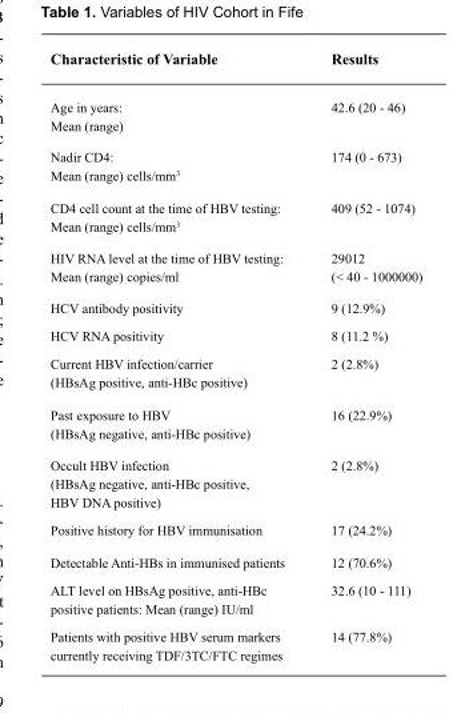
<table><thead><tr><td>Characteristic of Variable</td><td>Results</td></tr></thead><tbody><tr><td>Age in years: Mean (range)</td><td>42.6 (20 - 46)</td></tr><tr><td>Nadir CD4: Mean (range) cells/mm<sup>3</sup></td><td>174 (0 - 673)</td></tr><tr><td>CD4 cell count at the time of HBV testing: Mean (range) cells/mm<sup>3</sup></td><td>409 (52 - 1074)</td></tr><tr><td>HIV RNA level at the time of HBV testing: Mean (range) copies/ml</td><td>29012 (&lt; 40 - 1000000)</td></tr><tr><td>HCV antibody positivity</td><td>9 (12.9%)</td></tr><tr><td>HCV RNA positivity</td><td>8 (11.2 %)</td></tr><tr><td>Current HBV infection/carrier (HBsAg positive, anti-HBc positive)</td><td>2 (2.8%)</td></tr><tr><td>Past exposure to HBV (HBsAg negative, anti-HBc positive)</td><td>16 (22.9%)</td></tr><tr><td>Occult HBV infection (HBsAg negative, anti-HBc positive, HBV DNA positive)</td><td>2 (2.8%)</td></tr><tr><td>Positive history for HBV immunisation</td><td>17 (24.2%)</td></tr><tr><td>Detectable Anti-HBs in immunised patients</td><td>12 (70.6%)</td></tr><tr><td>ALT level on HBsAg positive, anti-HBc positive patients: Mean (range) IU/ml</td><td>32.6 (10 - 111)</td></tr><tr><td>Patients with positive HBV serum markers currently receiving TDF/3TC/FTC regimes</td><td>14 (77.8%)</td></tr></tbody></table>